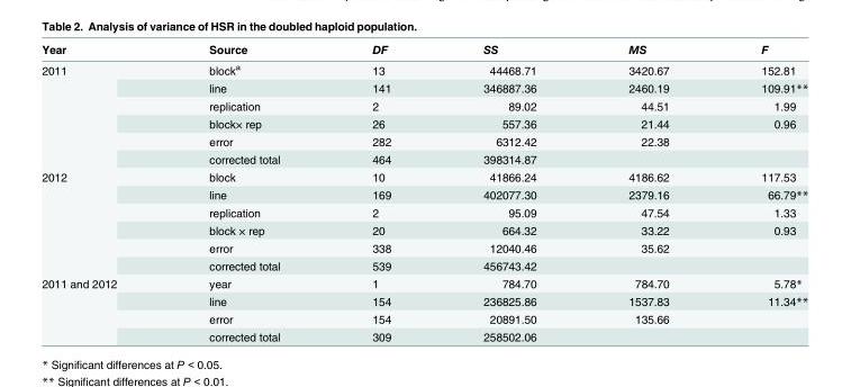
<table><thead><tr><td>Year</td><td>Source</td><td>DF</td><td>SS</td><td>MS</td><td>F</td></tr></thead><tbody><tr><td rowspan="6">2011</td><td>block<sup>a</sup></td><td>13</td><td>44468.71</td><td>3420.67</td><td>152.81</td></tr><tr><td>line</td><td>141</td><td>346887.36</td><td>2460.19</td><td>109.91**</td></tr><tr><td>replication</td><td>2</td><td>89.02</td><td>44.51</td><td>1.99</td></tr><tr><td>block× rep</td><td>26</td><td>557.36</td><td>21.44</td><td>0.96</td></tr><tr><td>error</td><td>282</td><td>6312.42</td><td>22.38</td><td></td></tr><tr><td>corrected total</td><td>464</td><td>398314.87</td><td></td><td></td></tr><tr><td rowspan="6">2012</td><td>block</td><td>10</td><td>41866.24</td><td>4186.62</td><td>117.53</td></tr><tr><td>line</td><td>169</td><td>402077.30</td><td>2379.16</td><td>66.79**</td></tr><tr><td>replication</td><td>2</td><td>95.09</td><td>47.54</td><td>1.33</td></tr><tr><td>block × rep</td><td>20</td><td>664.32</td><td>33.22</td><td>0.93</td></tr><tr><td>error</td><td>338</td><td>12040.46</td><td>35.62</td><td></td></tr><tr><td>corrected total</td><td>539</td><td>456743.42</td><td></td><td></td></tr><tr><td rowspan="4">2011 and 2012</td><td>year</td><td>1</td><td>784.70</td><td>784.70</td><td>5.78*</td></tr><tr><td>line</td><td>154</td><td>236825.86</td><td>1537.83</td><td>11.34**</td></tr><tr><td>error</td><td>154</td><td>20891.50</td><td>135.66</td><td></td></tr><tr><td>corrected total</td><td>309</td><td>258502.06</td><td></td><td></td></tr></tbody></table>